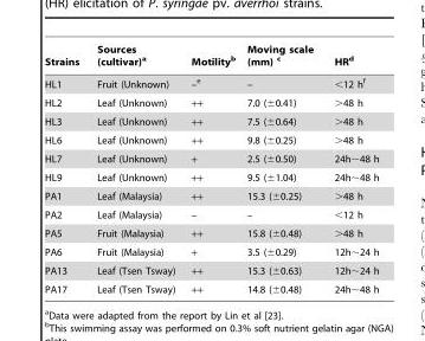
<table><thead><tr><td>Strains</td><td>Sources (cultivar)<sup>a</sup></td><td>Motility<sup>b</sup></td><td>Moving scale (mm) c</td><td>HR<sup>d</sup></td></tr></thead><tbody><tr><td>HL1</td><td>Fruit (Unknown)</td><td>–e</td><td>–</td><td>&lt;12 h<sup>f</sup></td></tr><tr><td>HL2</td><td>Leaf (Unknown)</td><td>++</td><td>7.0 (±0.41)</td><td>&gt;48 h</td></tr><tr><td>HL3</td><td>Leaf (Unknown)</td><td>++</td><td>7.5 (±0.64)</td><td>&gt;48 h</td></tr><tr><td>HL6</td><td>Leaf (Unknown)</td><td>++</td><td>9.8 (±0.25)</td><td>&gt;48 h</td></tr><tr><td>HL7</td><td>Leaf (Unknown)</td><td>+</td><td>2.5 (±0.50)</td><td>24h∼48 h</td></tr><tr><td>HL9</td><td>Leaf (Unknown)</td><td>++</td><td>9.5 (±1.04)</td><td>24h∼48 h</td></tr><tr><td>PA1</td><td>Leaf (Malaysia)</td><td>++</td><td>15.3 (±0.25)</td><td>&gt;48 h</td></tr><tr><td>PA2</td><td>Leaf (Malaysia)</td><td>–</td><td>–</td><td>&lt;12 h</td></tr><tr><td>PA5</td><td>Fruit (Malaysia)</td><td>++</td><td>15.8 (±0.48)</td><td>&gt;48 h</td></tr><tr><td>PA6</td><td>Fruit (Malaysia)</td><td>+</td><td>3.5 (±0.29)</td><td>12h∼24 h</td></tr><tr><td>PA13</td><td>Leaf (Tsen Tsway)</td><td>++</td><td>15.3 (±0.63)</td><td>12h∼24 h</td></tr><tr><td>PA17</td><td>Leaf (Tsen Tsway)</td><td>++</td><td>14.8 (±0.48)</td><td>24h∼48 h</td></tr></tbody></table>